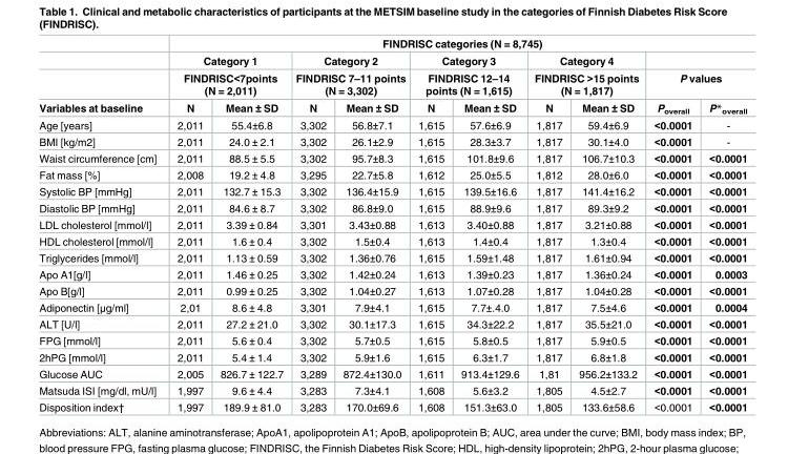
<table><thead><tr><td rowspan="4">Variables at baseline</td><td colspan="10">FINDRISC categories (N = 8,745)</td></tr><tr><td rowspan="2" colspan="2">Category 1 FINDRISC&lt;7points (N = 2,011)</td><td rowspan="2" colspan="2">Category 2 FINDRISC 7–11 points (N = 3,302)</td><td rowspan="2" colspan="2">Category 3 FINDRISC 12–14 points (N = 1,615)</td><td rowspan="2" colspan="2">Category 4 FINDRISC &gt;15 points (N = 1,817)</td><td></td><td></td></tr><tr><td colspan="2">P values</td></tr><tr><td>N</td><td>Mean ± SD</td><td>N</td><td>Mean ± SD</td><td>N</td><td>Mean ± SD</td><td>N</td><td>Mean ± SD</td><td>P<sub>overall</sub></td><td>P*<sub>overall</sub></td></tr></thead><tbody><tr><td>Age [years]</td><td>2,011</td><td>55.4±6.8</td><td>3,302</td><td>56.8±7.1</td><td>1,615</td><td>57.6±6.9</td><td>1,817</td><td>59.4±6.9</td><td>&lt;0.0001</td><td>-</td></tr><tr><td>BMI [kg/m2]</td><td>2,011</td><td>24.0 ± 2.1</td><td>3,302</td><td>26.1±2.9</td><td>1,615</td><td>28.3±3.7</td><td>1,817</td><td>30.1±4.0</td><td>&lt;0.0001</td><td>-</td></tr><tr><td>Waist circumference [cm]</td><td>2,011</td><td>88.5 ± 5.5</td><td>3,302</td><td>95.7±8.3</td><td>1,615</td><td>101.8±9.6</td><td>1,817</td><td>106.7±10.3</td><td>&lt;0.0001</td><td>&lt;0.0001</td></tr><tr><td>Fat mass [%]</td><td>2,008</td><td>19.2 ± 4.8</td><td>3,295</td><td>22.7±5.8</td><td>1,612</td><td>25.0±5.5</td><td>1,812</td><td>28.0±6.0</td><td>&lt;0.0001</td><td>&lt;0.0001</td></tr><tr><td>Systolic BP [mmHg]</td><td>2,011</td><td>132.7 ± 15.3</td><td>3,302</td><td>136.4±15.9</td><td>1,615</td><td>139.5±16.6</td><td>1,817</td><td>141.4±16.2</td><td>&lt;0.0001</td><td>&lt;0.0001</td></tr><tr><td>Diastolic BP [mmHg]</td><td>2,011</td><td>84.6 ± 8.7</td><td>3,302</td><td>86.8±9.0</td><td>1,615</td><td>88.9±9.6</td><td>1,817</td><td>89.3±9.2</td><td>&lt;0.0001</td><td>&lt;0.0001</td></tr><tr><td>LDL cholesterol [mmol/l]</td><td>2,011</td><td>3.39 ± 0.84</td><td>3,301</td><td>3.43±0.88</td><td>1,613</td><td>3.40±0.88</td><td>1,817</td><td>3.21±0.88</td><td>&lt;0.0001</td><td>&lt;0.0001</td></tr><tr><td>HDL cholesterol [mmol/l]</td><td>2,011</td><td>1.6 ± 0.4</td><td>3,302</td><td>1.5±0.4</td><td>1,613</td><td>1.4±0.4</td><td>1,817</td><td>1.3±0.4</td><td>&lt;0.0001</td><td>&lt;0.0001</td></tr><tr><td>Triglycerides [mmol/l]</td><td>2,011</td><td>1.13 ± 0.59</td><td>3,302</td><td>1.36±0.76</td><td>1,615</td><td>1.59±1.48</td><td>1,817</td><td>1.61±0.94</td><td>&lt;0.0001</td><td>&lt;0.0001</td></tr><tr><td>Apo A1[g/l]</td><td>2,011</td><td>1.46 ± 0.25</td><td>3,302</td><td>1.42±0.24</td><td>1,613</td><td>1.39±0.23</td><td>1,817</td><td>1.36±0.24</td><td>&lt;0.0001</td><td>0.0003</td></tr><tr><td>Apo B[g/l]</td><td>2,011</td><td>0.99 ± 0.25</td><td>3,302</td><td>1.04±0.27</td><td>1,613</td><td>1.07±0.28</td><td>1,817</td><td>1.04±0.28</td><td>&lt;0.0001</td><td>&lt;0.0001</td></tr><tr><td>Adiponectin [μg/ml]</td><td>2,01</td><td>8.6 ± 4.8</td><td>3,301</td><td>7.9±4.1</td><td>1,615</td><td>7.7±.4.0</td><td>1,817</td><td>7.5±4.6</td><td>&lt;0.0001</td><td>0.0004</td></tr><tr><td>ALT [U/l]</td><td>2,011</td><td>27.2 ± 21.0</td><td>3,302</td><td>30.1±17.3</td><td>1,615</td><td>34.3±22.2</td><td>1,817</td><td>35.5±21.0</td><td>&lt;0.0001</td><td>&lt;0.0001</td></tr><tr><td>FPG [mmol/l]</td><td>2,011</td><td>5.6 ± 0.4</td><td>3,302</td><td>5.7±0.5</td><td>1,615</td><td>5.8±0.5</td><td>1,817</td><td>5.9±0.5</td><td>&lt;0.0001</td><td>&lt;0.0001</td></tr><tr><td>2hPG [mmol/l]</td><td>2,011</td><td>5.4 ± 1.4</td><td>3,302</td><td>5.9±1.6</td><td>1,615</td><td>6.3±1.7</td><td>1,817</td><td>6.8±1.8</td><td>&lt;0.0001</td><td>&lt;0.0001</td></tr><tr><td>Glucose AUC</td><td>2,005</td><td>826.7 ± 122.7</td><td>3,289</td><td>872.4±130.0</td><td>1,611</td><td>913.4±129.6</td><td>1,81</td><td>956.2±133.2</td><td>&lt;0.0001</td><td>&lt;0.0001</td></tr><tr><td>Matsuda ISI [mg/dl, mU/l]</td><td>1,997</td><td>9.6 ± 4.4</td><td>3,283</td><td>7.3±4.1</td><td>1,608</td><td>5.6±3.2</td><td>1,805</td><td>4.5±2.7</td><td>&lt;0.0001</td><td>&lt;0.0001</td></tr><tr><td>Disposition index†</td><td>1,997</td><td>189.9 ± 81.0</td><td>3,283</td><td>170.0±69.6</td><td>1,608</td><td>151.3±63.0</td><td>1,805</td><td>133.6±58.6</td><td>&lt;0.0001</td><td>&lt;0.0001</td></tr></tbody></table>